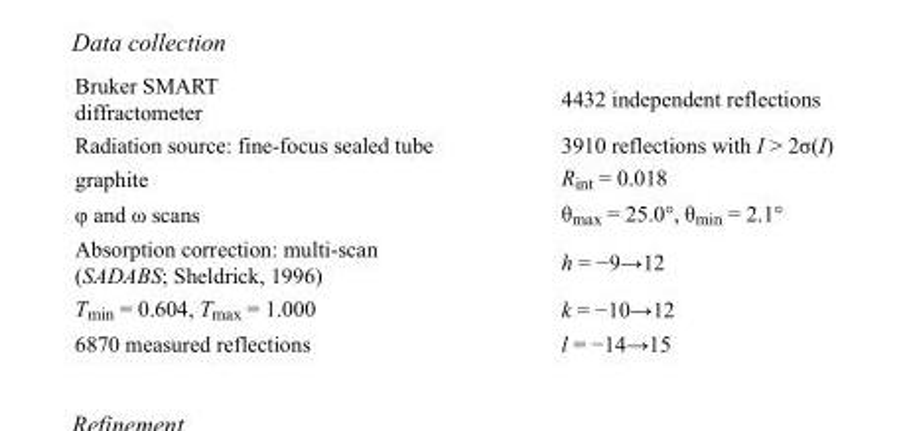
<table><tbody><tr><td>Bruker SMART diffractometer</td><td>4432 independent reflections</td></tr><tr><td>Radiation source: fine-focus sealed tube</td><td>3910 reflections with I &gt; 2σ(I)</td></tr><tr><td>graphite</td><td>R<sub>int</sub> = 0.018</td></tr><tr><td>φ and ω scans</td><td>θ<sub>max</sub> = 25.0°, θ<sub>min</sub> = 2.1°</td></tr><tr><td>Absorption correction: multi-scan (SADABS; Sheldrick, 1996)</td><td>h = −9→12</td></tr><tr><td>T<sub>min</sub> = 0.604, T<sub>max</sub> = 1.000</td><td>k = −10→12</td></tr><tr><td>6870 measured reflections</td><td>l = −14→15</td></tr></tbody></table>